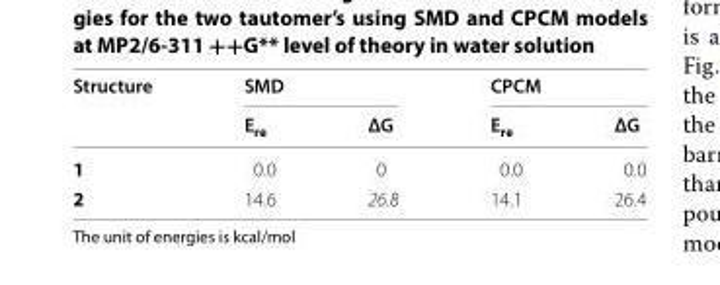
<table><thead><tr><td rowspan="2">Structure</td><td colspan="2">SMD</td><td colspan="2">CPCM</td></tr><tr><td>E<sub>re</sub></td><td>ΔG</td><td>E<sub>re</sub></td><td>ΔG</td></tr></thead><tbody><tr><td>1</td><td>0.0</td><td>0</td><td>0.0</td><td>0.0</td></tr><tr><td>2</td><td>14.6</td><td>26.8</td><td>14.1</td><td>26.4</td></tr></tbody></table>